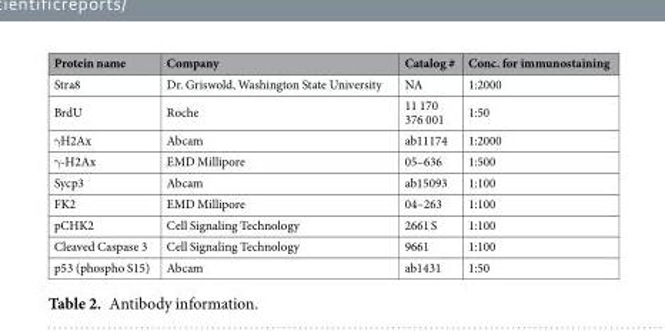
<table><thead><tr><td>Protein name</td><td>Company</td><td>Catalog #</td><td>Conc. for immunostaining</td></tr></thead><tbody><tr><td>Stra8</td><td>Dr. Griswold, Washington State University</td><td>NA</td><td>1:2000</td></tr><tr><td>BrdU</td><td>Roche</td><td>11 170 376 001</td><td>1:50</td></tr><tr><td>γH2Ax</td><td>Abcam</td><td>ab11174</td><td>1:2000</td></tr><tr><td>γ-H2Ax</td><td>EMD Millipore</td><td>05–636</td><td>1:500</td></tr><tr><td>Sycp3</td><td>Abcam</td><td>ab15093</td><td>1:100</td></tr><tr><td>FK2</td><td>EMD Millipore</td><td>04–263</td><td>1:100</td></tr><tr><td>pCHK2</td><td>Cell Signaling Technology</td><td>2661 S</td><td>1:100</td></tr><tr><td>Cleaved Caspase 3</td><td>Cell Signaling Technology</td><td>9661</td><td>1:100</td></tr><tr><td>p53 (phospho S15)</td><td>Abcam</td><td>ab1431</td><td>1:50</td></tr></tbody></table>